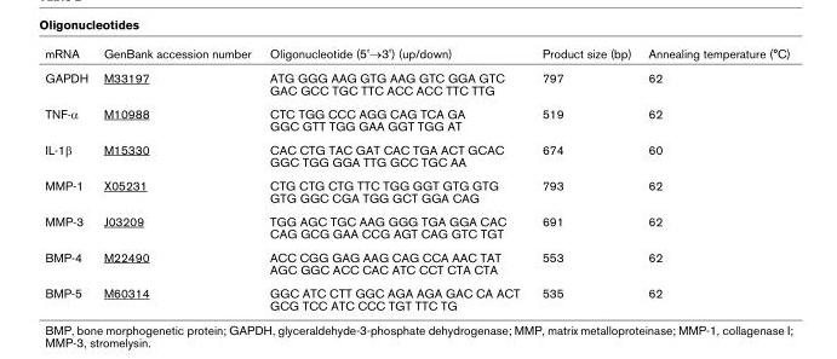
<table><thead><tr><td>mRNA</td><td>GenBank accession number</td><td>Oligonucleotide (5&#x27;→3&#x27;) (up/down)</td><td>Product size (bp)</td><td>Annealing temperature (°C)</td></tr></thead><tbody><tr><td>GAPDH</td><td>M33197</td><td>ATG GGG AAG GTG AAG GTC GGA GTC GAC GCC TGC TTC ACC ACC TTC TTG</td><td>797</td><td>62</td></tr><tr><td>TNF-α</td><td>M10988</td><td>CTC TGG CCC AGG CAG TCA GA GGC GTT TGG GAA GGT TGG AT</td><td>519</td><td>62</td></tr><tr><td>IL-1β</td><td>M15330</td><td>CAC CTG TAC GAT CAC TGA ACT GCAC GGC TGG GGA TTG GCC TGC AA</td><td>674</td><td>60</td></tr><tr><td>MMP-1</td><td>X05231</td><td>CTG CTG CTG TTC TGG GGT GTG GTG GTG GGC CGA TGG GCT GGA CAG</td><td>793</td><td>62</td></tr><tr><td>MMP-3</td><td>J03209</td><td>TGG AGC TGC AAG GGG TGA GGA CAC CAG GCG GAA CCG AGT CAG GTC TGT</td><td>691</td><td>62</td></tr><tr><td>BMP-4</td><td>M22490</td><td>ACC CGG GAG AAG CAG CCA AAC TAT AGC GGC ACC CAC ATC CCT CTA CTA</td><td>553</td><td>62</td></tr><tr><td>BMP-5</td><td>M60314</td><td>GGC ATC CTT GGC AGA AGA GAC CA ACT GCG TCC ATC CCC TGT TTC TG</td><td>535</td><td>62</td></tr></tbody></table>